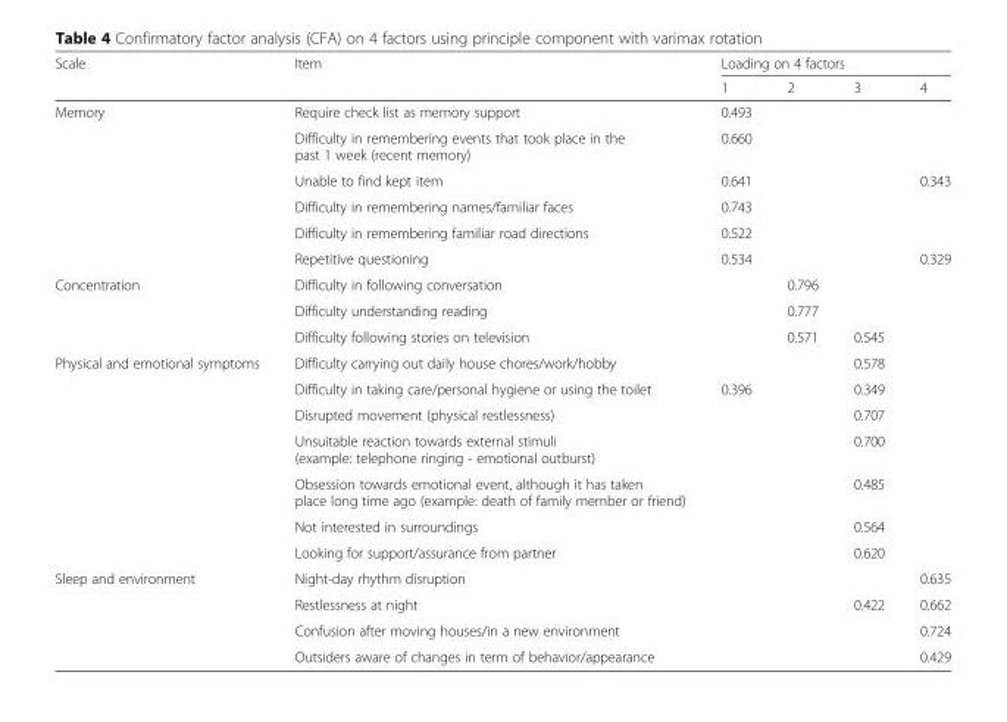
<table><thead><tr><td rowspan="2">Scale</td><td rowspan="2">Item</td><td colspan="4">Loading on 4 factors</td></tr><tr><td>1</td><td>2</td><td>3</td><td>4</td></tr></thead><tbody><tr><td rowspan="6">Memory</td><td>Require check list as memory support</td><td>0.493</td><td></td><td></td><td></td></tr><tr><td>Difficulty in remembering events that took place in the past 1 week (recent memory)</td><td>0.660</td><td></td><td></td><td></td></tr><tr><td>Unable to find kept item</td><td>0.641</td><td></td><td></td><td>0.343</td></tr><tr><td>Difficulty in remembering names/familiar faces</td><td>0.743</td><td></td><td></td><td></td></tr><tr><td>Difficulty in remembering familiar road directions</td><td>0.522</td><td></td><td></td><td></td></tr><tr><td>Repetitive questioning</td><td>0.534</td><td></td><td></td><td>0.329</td></tr><tr><td rowspan="3">Concentration</td><td>Difficulty in following conversation</td><td></td><td>0.796</td><td></td><td></td></tr><tr><td>Difficulty understanding reading</td><td></td><td>0.777</td><td></td><td></td></tr><tr><td>Difficulty following stories on television</td><td></td><td>0.571</td><td>0.545</td><td></td></tr><tr><td rowspan="7">Physical and emotional symptoms</td><td>Difficulty carrying out daily house chores/work/hobby</td><td></td><td></td><td>0.578</td><td></td></tr><tr><td>Difficulty in taking care/personal hygiene or using the toilet</td><td>0.396</td><td></td><td>0.349</td><td></td></tr><tr><td>Disrupted movement (physical restlessness)</td><td></td><td></td><td>0.707</td><td></td></tr><tr><td>Unsuitable reaction towards external stimuli (example: telephone ringing - emotional outburst)</td><td></td><td></td><td>0.700</td><td></td></tr><tr><td>Obsession towards emotional event, although it has taken place long time ago (example: death of family member or friend)</td><td></td><td></td><td>0.485</td><td></td></tr><tr><td>Not interested in surroundings</td><td></td><td></td><td>0.564</td><td></td></tr><tr><td>Looking for support/assurance from partner</td><td></td><td></td><td>0.620</td><td></td></tr><tr><td rowspan="4">Sleep and environment</td><td>Night-day rhythm disruption</td><td></td><td></td><td></td><td>0.635</td></tr><tr><td>Restlessness at night</td><td></td><td></td><td>0.422</td><td>0.662</td></tr><tr><td>Confusion after moving houses/in a new environment</td><td></td><td></td><td></td><td>0.724</td></tr><tr><td>Outsiders aware of changes in term of behavior/appearance</td><td></td><td></td><td></td><td>0.429</td></tr></tbody></table>